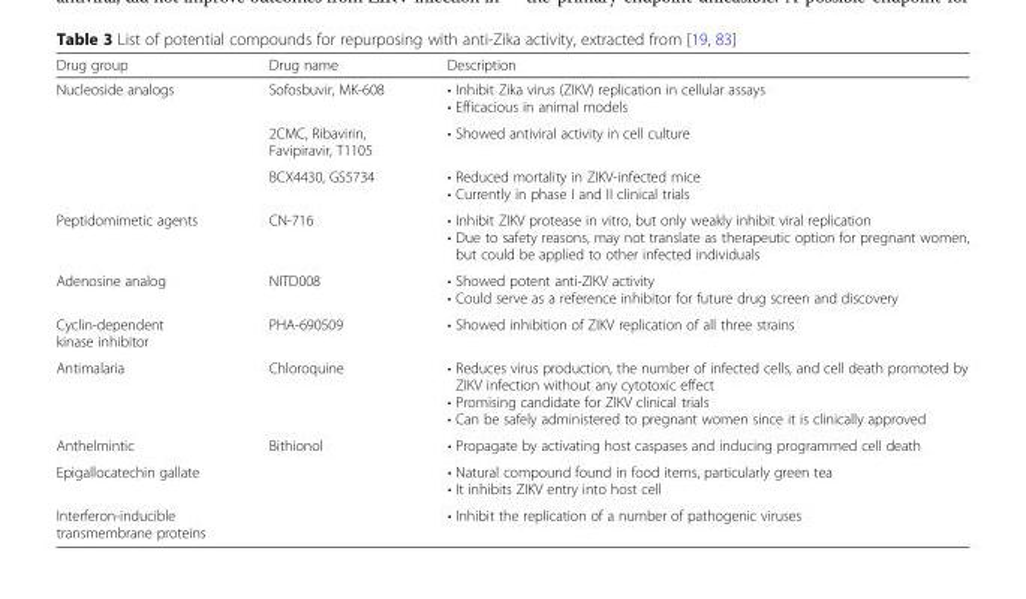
<table><thead><tr><td>Drug group</td><td>Drug name</td><td>Description</td></tr></thead><tbody><tr><td rowspan="3">Nucleoside analogs</td><td>Sofosbuvir, MK-608</td><td>• Inhibit Zika virus (ZIKV) replication in cellular assays • Efficacious in animal models</td></tr><tr><td>2CMC, Ribavirin, Favipiravir, T1105</td><td>• Showed antiviral activity in cell culture</td></tr><tr><td>BCX4430, GS5734</td><td>• Reduced mortality in ZIKV-infected mice • Currently in phase I and II clinical trials</td></tr><tr><td>Peptidomimetic agents</td><td>CN-716</td><td>• Inhibit ZIKV protease in vitro, but only weakly inhibit viral replication • Due to safety reasons, may not translate as therapeutic option for pregnant women, but could be applied to other infected individuals</td></tr><tr><td>Adenosine analog</td><td>NITD008</td><td>• Showed potent anti-ZIKV activity • Could serve as a reference inhibitor for future drug screen and discovery</td></tr><tr><td>Cyclin-dependent kinase inhibitor</td><td>PHA-690509</td><td>• Showed inhibition of ZIKV replication of all three strains</td></tr><tr><td>Antimalaria</td><td>Chloroquine</td><td>• Reduces virus production, the number of infected cells, and cell death promoted by ZIKV infection without any cytotoxic effect • Promising candidate for ZIKV clinical trials • Can be safely administered to pregnant women since it is clinically approved</td></tr><tr><td>Anthelmintic</td><td>Bithionol</td><td>• Propagate by activating host caspases and inducing programmed cell death</td></tr><tr><td>Epigallocatechin gallate</td><td></td><td>• Natural compound found in food items, particularly green tea • It inhibits ZIKV entry into host cell</td></tr><tr><td>Interferon-inducible transmembrane proteins</td><td></td><td>• Inhibit the replication of a number of pathogenic viruses</td></tr></tbody></table>